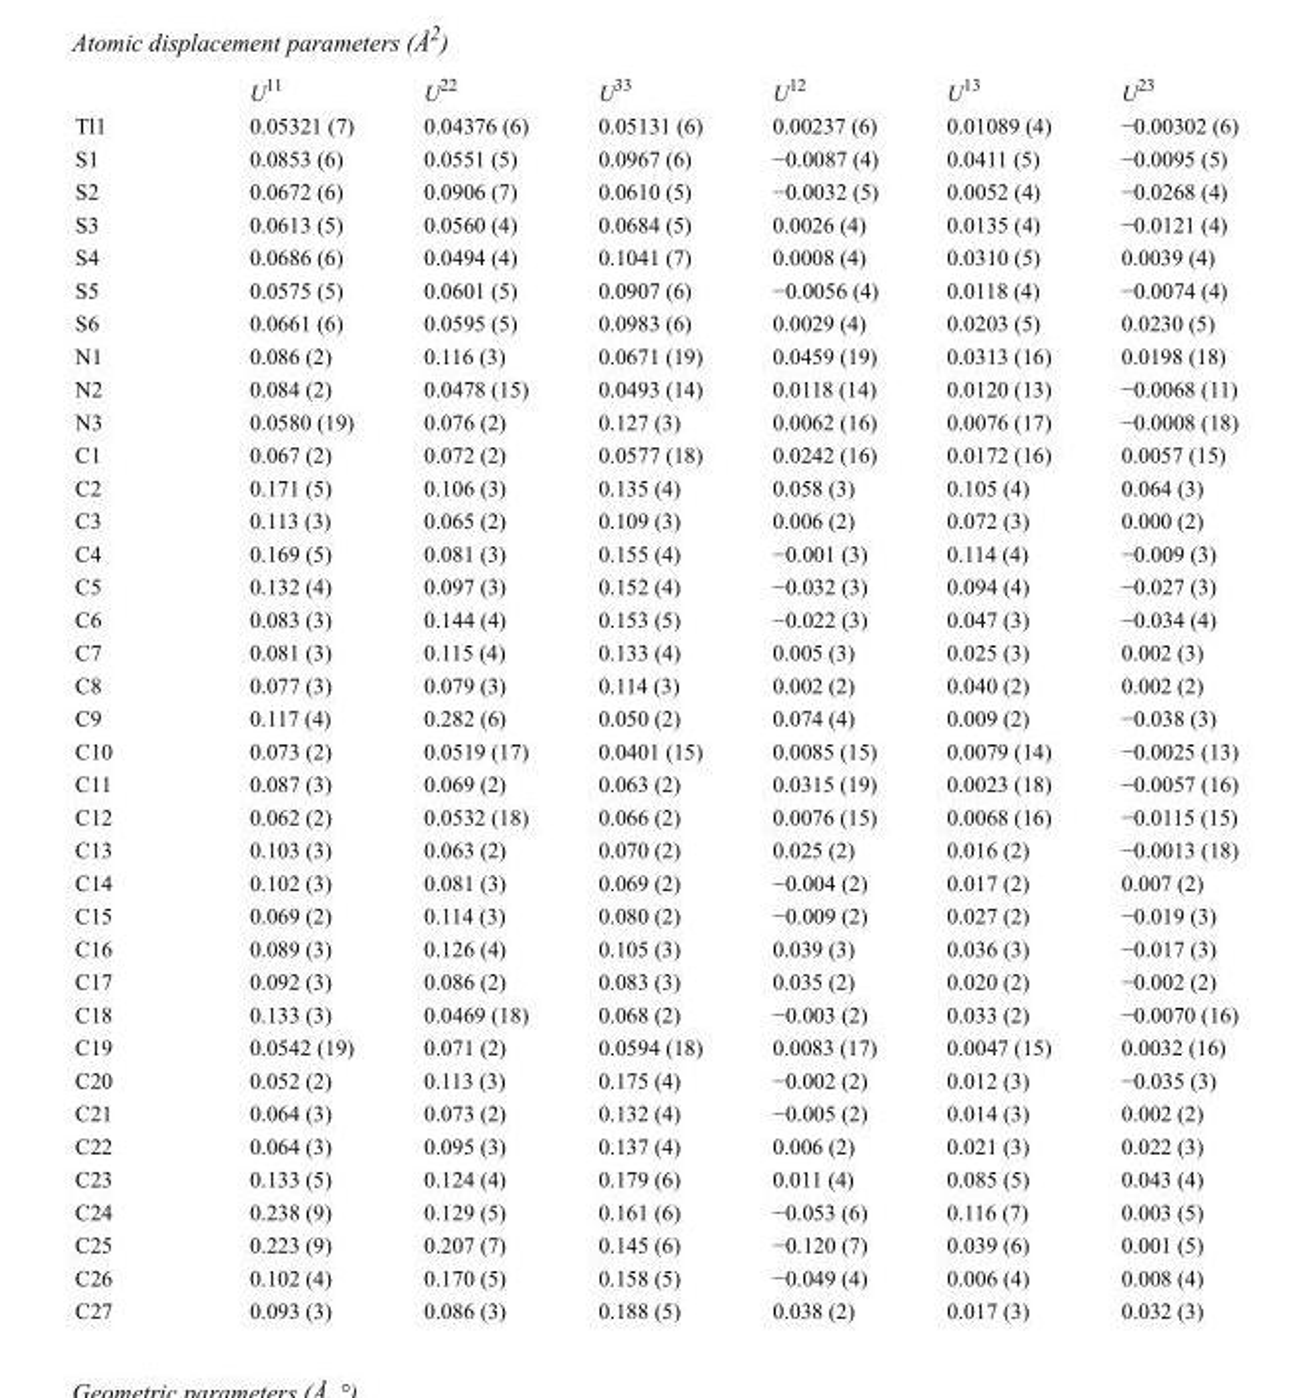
<table><thead><tr><td></td><td>U<sup>11</sup></td><td>U<sup>22</sup></td><td>U<sup>33</sup></td><td>U<sup>12</sup></td><td>U<sup>13</sup></td><td>U<sup>23</sup></td></tr></thead><tbody><tr><td>Tl1</td><td>0.05321 (7)</td><td>0.04376 (6)</td><td>0.05131 (6)</td><td>0.00237 (6)</td><td>0.01089 (4)</td><td>−0.00302 (6)</td></tr><tr><td>S1</td><td>0.0853 (6)</td><td>0.0551 (5)</td><td>0.0967 (6)</td><td>−0.0087 (4)</td><td>0.0411 (5)</td><td>−0.0095 (5)</td></tr><tr><td>S2</td><td>0.0672 (6)</td><td>0.0906 (7)</td><td>0.0610 (5)</td><td>−0.0032 (5)</td><td>0.0052 (4)</td><td>−0.0268 (4)</td></tr><tr><td>S3</td><td>0.0613 (5)</td><td>0.0560 (4)</td><td>0.0684 (5)</td><td>0.0026 (4)</td><td>0.0135 (4)</td><td>−0.0121 (4)</td></tr><tr><td>S4</td><td>0.0686 (6)</td><td>0.0494 (4)</td><td>0.1041 (7)</td><td>0.0008 (4)</td><td>0.0310 (5)</td><td>0.0039 (4)</td></tr><tr><td>S5</td><td>0.0575 (5)</td><td>0.0601 (5)</td><td>0.0907 (6)</td><td>−0.0056 (4)</td><td>0.0118 (4)</td><td>−0.0074 (4)</td></tr><tr><td>S6</td><td>0.0661 (6)</td><td>0.0595 (5)</td><td>0.0983 (6)</td><td>0.0029 (4)</td><td>0.0203 (5)</td><td>0.0230 (5)</td></tr><tr><td>N1</td><td>0.086 (2)</td><td>0.116 (3)</td><td>0.0671 (19)</td><td>0.0459 (19)</td><td>0.0313 (16)</td><td>0.0198 (18)</td></tr><tr><td>N2</td><td>0.084 (2)</td><td>0.0478 (15)</td><td>0.0493 (14)</td><td>0.0118 (14)</td><td>0.0120 (13)</td><td>−0.0068 (11)</td></tr><tr><td>N3</td><td>0.0580 (19)</td><td>0.076 (2)</td><td>0.127 (3)</td><td>0.0062 (16)</td><td>0.0076 (17)</td><td>−0.0008 (18)</td></tr><tr><td>C1</td><td>0.067 (2)</td><td>0.072 (2)</td><td>0.0577 (18)</td><td>0.0242 (16)</td><td>0.0172 (16)</td><td>0.0057 (15)</td></tr><tr><td>C2</td><td>0.171 (5)</td><td>0.106 (3)</td><td>0.135 (4)</td><td>0.058 (3)</td><td>0.105 (4)</td><td>0.064 (3)</td></tr><tr><td>C3</td><td>0.113 (3)</td><td>0.065 (2)</td><td>0.109 (3)</td><td>0.006 (2)</td><td>0.072 (3)</td><td>0.000 (2)</td></tr><tr><td>C4</td><td>0.169 (5)</td><td>0.081 (3)</td><td>0.155 (4)</td><td>−0.001 (3)</td><td>0.114 (4)</td><td>−0.009 (3)</td></tr><tr><td>C5</td><td>0.132 (4)</td><td>0.097 (3)</td><td>0.152 (4)</td><td>−0.032 (3)</td><td>0.094 (4)</td><td>−0.027 (3)</td></tr><tr><td>C6</td><td>0.083 (3)</td><td>0.144 (4)</td><td>0.153 (5)</td><td>−0.022 (3)</td><td>0.047 (3)</td><td>−0.034 (4)</td></tr><tr><td>C7</td><td>0.081 (3)</td><td>0.115 (4)</td><td>0.133 (4)</td><td>0.005 (3)</td><td>0.025 (3)</td><td>0.002 (3)</td></tr><tr><td>C8</td><td>0.077 (3)</td><td>0.079 (3)</td><td>0.114 (3)</td><td>0.002 (2)</td><td>0.040 (2)</td><td>0.002 (2)</td></tr><tr><td>C9</td><td>0.117 (4)</td><td>0.282 (6)</td><td>0.050 (2)</td><td>0.074 (4)</td><td>0.009 (2)</td><td>−0.038 (3)</td></tr><tr><td>C10</td><td>0.073 (2)</td><td>0.0519 (17)</td><td>0.0401 (15)</td><td>0.0085 (15)</td><td>0.0079 (14)</td><td>−0.0025 (13)</td></tr><tr><td>C11</td><td>0.087 (3)</td><td>0.069 (2)</td><td>0.063 (2)</td><td>0.0315 (19)</td><td>0.0023 (18)</td><td>−0.0057 (16)</td></tr><tr><td>C12</td><td>0.062 (2)</td><td>0.0532 (18)</td><td>0.066 (2)</td><td>0.0076 (15)</td><td>0.0068 (16)</td><td>−0.0115 (15)</td></tr><tr><td>C13</td><td>0.103 (3)</td><td>0.063 (2)</td><td>0.070 (2)</td><td>0.025 (2)</td><td>0.016 (2)</td><td>−0.0013 (18)</td></tr><tr><td>C14</td><td>0.102 (3)</td><td>0.081 (3)</td><td>0.069 (2)</td><td>−0.004 (2)</td><td>0.017 (2)</td><td>0.007 (2)</td></tr><tr><td>C15</td><td>0.069 (2)</td><td>0.114 (3)</td><td>0.080 (2)</td><td>−0.009 (2)</td><td>0.027 (2)</td><td>−0.019 (3)</td></tr><tr><td>C16</td><td>0.089 (3)</td><td>0.126 (4)</td><td>0.105 (3)</td><td>0.039 (3)</td><td>0.036 (3)</td><td>−0.017 (3)</td></tr><tr><td>C17</td><td>0.092 (3)</td><td>0.086 (2)</td><td>0.083 (3)</td><td>0.035 (2)</td><td>0.020 (2)</td><td>−0.002 (2)</td></tr><tr><td>C18</td><td>0.133 (3)</td><td>0.0469 (18)</td><td>0.068 (2)</td><td>−0.003 (2)</td><td>0.033 (2)</td><td>−0.0070 (16)</td></tr><tr><td>C19</td><td>0.0542 (19)</td><td>0.071 (2)</td><td>0.0594 (18)</td><td>0.0083 (17)</td><td>0.0047 (15)</td><td>0.0032 (16)</td></tr><tr><td>C20</td><td>0.052 (2)</td><td>0.113 (3)</td><td>0.175 (4)</td><td>−0.002 (2)</td><td>0.012 (3)</td><td>−0.035 (3)</td></tr><tr><td>C21</td><td>0.064 (3)</td><td>0.073 (2)</td><td>0.132 (4)</td><td>−0.005 (2)</td><td>0.014 (3)</td><td>0.002 (2)</td></tr><tr><td>C22</td><td>0.064 (3)</td><td>0.095 (3)</td><td>0.137 (4)</td><td>0.006 (2)</td><td>0.021 (3)</td><td>0.022 (3)</td></tr><tr><td>C23</td><td>0.133 (5)</td><td>0.124 (4)</td><td>0.179 (6)</td><td>0.011 (4)</td><td>0.085 (5)</td><td>0.043 (4)</td></tr><tr><td>C24</td><td>0.238 (9)</td><td>0.129 (5)</td><td>0.161 (6)</td><td>−0.053 (6)</td><td>0.116 (7)</td><td>0.003 (5)</td></tr><tr><td>C25</td><td>0.223 (9)</td><td>0.207 (7)</td><td>0.145 (6)</td><td>−0.120 (7)</td><td>0.039 (6)</td><td>0.001 (5)</td></tr><tr><td>C26</td><td>0.102 (4)</td><td>0.170 (5)</td><td>0.158 (5)</td><td>−0.049 (4)</td><td>0.006 (4)</td><td>0.008 (4)</td></tr><tr><td>C27</td><td>0.093 (3)</td><td>0.086 (3)</td><td>0.188 (5)</td><td>0.038 (2)</td><td>0.017 (3)</td><td>0.032 (3)</td></tr></tbody></table>